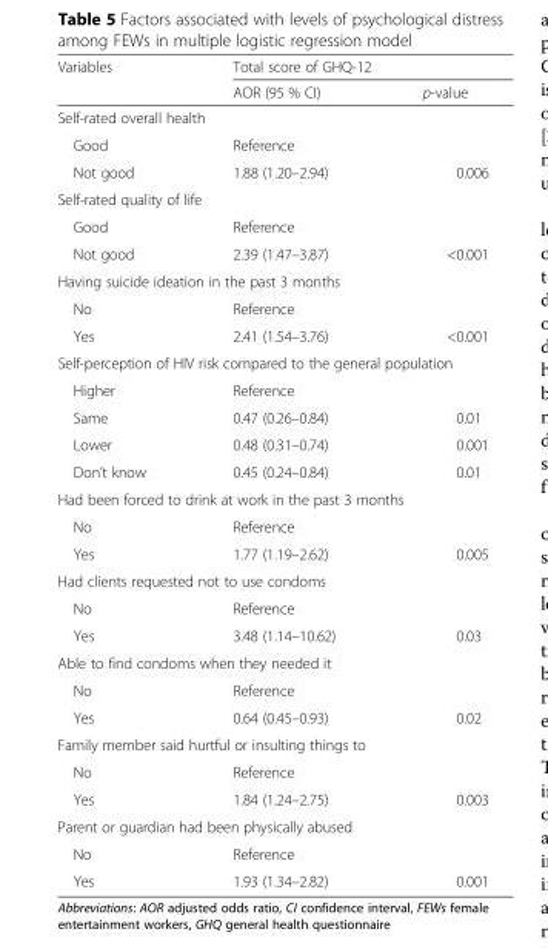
<table><thead><tr><td rowspan="2">Variables</td><td colspan="2">Total score of GHQ-12</td></tr><tr><td>AOR (95 % CI)</td><td>p-value</td></tr></thead><tbody><tr><td colspan="3">Self-rated overall health</td></tr><tr><td>Good</td><td>Reference</td><td></td></tr><tr><td>Not good</td><td>1.88 (1.20–2.94)</td><td>0.006</td></tr><tr><td colspan="3">Self-rated quality of life</td></tr><tr><td>Good</td><td>Reference</td><td></td></tr><tr><td>Not good</td><td>2.39 (1.47–3.87)</td><td>&lt;0.001</td></tr><tr><td colspan="3">Having suicide ideation in the past 3 months</td></tr><tr><td>No</td><td>Reference</td><td></td></tr><tr><td>Yes</td><td>2.41 (1.54–3.76)</td><td>&lt;0.001</td></tr><tr><td colspan="3">Self-perception of HIV risk compared to the general population</td></tr><tr><td>Higher</td><td>Reference</td><td></td></tr><tr><td>Same</td><td>0.47 (0.26–0.84)</td><td>0.01</td></tr><tr><td>Lower</td><td>0.48 (0.31–0.74)</td><td>0.001</td></tr><tr><td>Don’t know</td><td>0.45 (0.24–0.84)</td><td>0.01</td></tr><tr><td colspan="3">Had been forced to drink at work in the past 3 months</td></tr><tr><td>No</td><td>Reference</td><td></td></tr><tr><td>Yes</td><td>1.77 (1.19–2.62)</td><td>0.005</td></tr><tr><td colspan="3">Had clients requested not to use condoms</td></tr><tr><td>No</td><td>Reference</td><td></td></tr><tr><td>Yes</td><td>3.48 (1.14–10.62)</td><td>0.03</td></tr><tr><td colspan="3">Able to find condoms when they needed it</td></tr><tr><td>No</td><td>Reference</td><td></td></tr><tr><td>Yes</td><td>0.64 (0.45–0.93)</td><td>0.02</td></tr><tr><td colspan="3">Family member said hurtful or insulting things to</td></tr><tr><td>No</td><td>Reference</td><td></td></tr><tr><td>Yes</td><td>1.84 (1.24–2.75)</td><td>0.003</td></tr><tr><td colspan="3">Parent or guardian had been physically abused</td></tr><tr><td>No</td><td>Reference</td><td></td></tr><tr><td>Yes</td><td>1.93 (1.34–2.82)</td><td>0.001</td></tr></tbody></table>